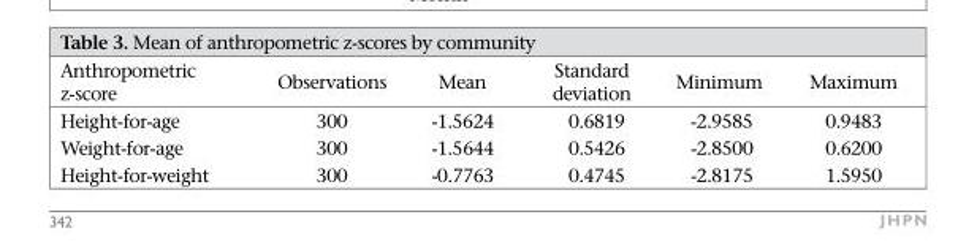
<table><thead><tr><td>Anthropometric z-score</td><td>Observations</td><td>Mean</td><td>Standard deviation</td><td>Minimum</td><td>Maximum</td></tr></thead><tbody><tr><td>Height-for-age</td><td>300</td><td>-1.5624</td><td>0.6819</td><td>-2.9585</td><td>0.9483</td></tr><tr><td>Weight-for-age</td><td>300</td><td>-1.5644</td><td>0.5426</td><td>-2.8500</td><td>0.6200</td></tr><tr><td>Height-for-weight</td><td>300</td><td>-0.7763</td><td>0.4745</td><td>-2.8175</td><td>1.5950</td></tr></tbody></table>